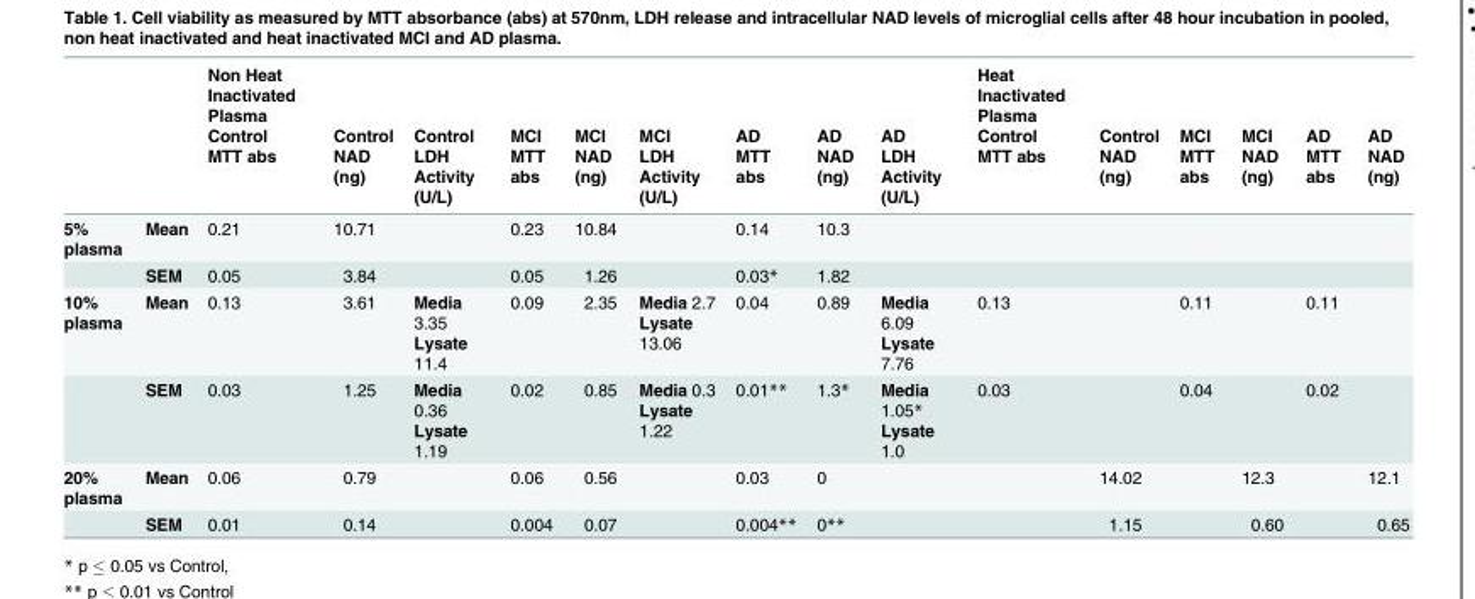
<table><thead><tr><td rowspan="3"></td><td rowspan="3"></td><td rowspan="3">Non Heat Inactivated Plasma Control MTT abs</td><td rowspan="3">Control NAD (ng)</td><td rowspan="3">Control LDH Activity (U/L)</td><td rowspan="3">MCI MTT abs</td><td rowspan="3">MCI NAD (ng)</td><td rowspan="3">MCI LDH Activity (U/L)</td><td rowspan="3">AD MTT abs</td><td rowspan="3">AD NAD (ng)</td><td rowspan="3">AD LDH Activity (U/L)</td><td rowspan="3">Heat Inactivated Plasma Control MTT abs</td><td rowspan="3">Control NAD (ng)</td><td rowspan="3">MCI MTT abs</td><td rowspan="3">MCI NAD (ng)</td><td rowspan="3">AD MTT abs</td><td rowspan="3">AD NAD (ng)</td></tr><tr></tr><tr></tr></thead><tbody><tr><td rowspan="2">5% plasma</td><td>Mean</td><td>0.21</td><td>10.71</td><td></td><td>0.23</td><td>10.84</td><td></td><td>0.14</td><td>10.3</td><td></td><td></td><td></td><td></td><td></td><td></td><td></td></tr><tr><td>SEM</td><td>0.05</td><td>3.84</td><td></td><td>0.05</td><td>1.26</td><td></td><td>0.03*</td><td>1.82</td><td></td><td></td><td></td><td></td><td></td><td></td><td></td></tr><tr><td rowspan="2">10% plasma</td><td>Mean</td><td>0.13</td><td>3.61</td><td>Media 3.35 Lysate 11.4</td><td>0.09</td><td>2.35</td><td>Media 2.7 Lysate 13.06</td><td>0.04</td><td>0.89</td><td>Media 6.09 Lysate 7.76</td><td>0.13</td><td></td><td>0.11</td><td></td><td>0.11</td><td></td></tr><tr><td>SEM</td><td>0.03</td><td>1.25</td><td>Media 0.36 Lysate 1.19</td><td>0.02</td><td>0.85</td><td>Media 0.3 Lysate 1.22</td><td>0.01**</td><td>1.3*</td><td>Media 1.05* Lysate 1.0</td><td>0.03</td><td></td><td>0.04</td><td></td><td>0.02</td><td></td></tr><tr><td rowspan="2">20% plasma</td><td>Mean</td><td>0.06</td><td>0.79</td><td></td><td>0.06</td><td>0.56</td><td></td><td>0.03</td><td>0</td><td></td><td></td><td>14.02</td><td></td><td>12.3</td><td></td><td>12.1</td></tr><tr><td>SEM</td><td>0.01</td><td>0.14</td><td></td><td>0.004</td><td>0.07</td><td></td><td>0.004**</td><td>0**</td><td></td><td></td><td>1.15</td><td></td><td>0.60</td><td></td><td>0.65</td></tr></tbody></table>